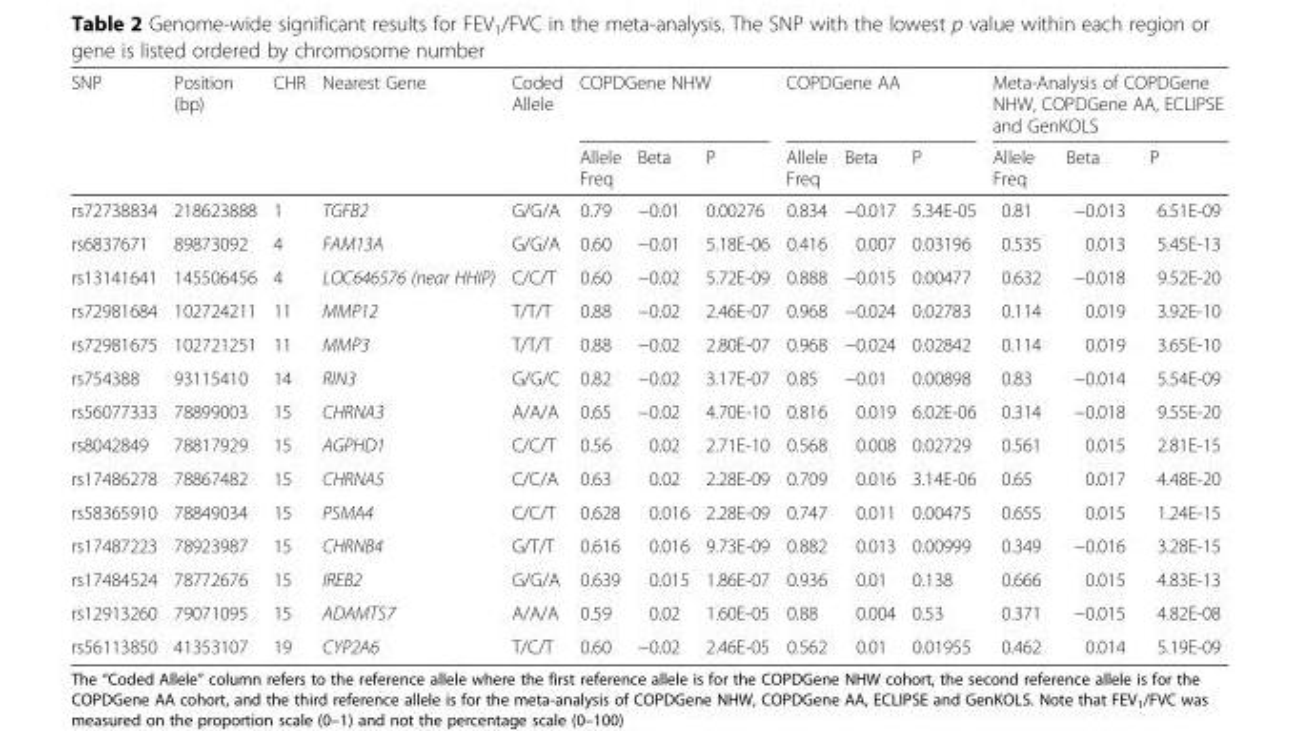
<table><thead><tr><td rowspan="2">SNP</td><td rowspan="2">Position (bp)</td><td rowspan="2">CHR</td><td rowspan="2">Nearest Gene</td><td rowspan="2">Coded Allele</td><td colspan="3">COPDGene NHW</td><td colspan="3">COPDGene AA</td><td colspan="3">Meta-Analysis of COPDGene NHW, COPDGene AA, ECLIPSE and GenKOLS</td></tr><tr><td>Allele Freq</td><td>Beta</td><td>P</td><td>Allele Freq</td><td>Beta</td><td>P</td><td>Allele Freq</td><td>Beta</td><td>P</td></tr></thead><tbody><tr><td>rs72738834</td><td>218623888</td><td>1</td><td>TGFB2</td><td>G/G/A</td><td>0.79</td><td>−0.01</td><td>0.00276</td><td>0.834</td><td>−0.017</td><td>5.34E-05</td><td>0.81</td><td>−0.013</td><td>6.51E-09</td></tr><tr><td>rs6837671</td><td>89873092</td><td>4</td><td>FAM13A</td><td>G/G/A</td><td>0.60</td><td>−0.01</td><td>5.18E-06</td><td>0.416</td><td>0.007</td><td>0.03196</td><td>0.535</td><td>0.013</td><td>5.45E-13</td></tr><tr><td>rs13141641</td><td>145506456</td><td>4</td><td>LOC646576 (near HHIP)</td><td>C/C/T</td><td>0.60</td><td>−0.02</td><td>5.72E-09</td><td>0.888</td><td>−0.015</td><td>0.00477</td><td>0.632</td><td>−0.018</td><td>9.52E-20</td></tr><tr><td>rs72981684</td><td>102724211</td><td>11</td><td>MMP12</td><td>T/T/T</td><td>0.88</td><td>−0.02</td><td>2.46E-07</td><td>0.968</td><td>−0.024</td><td>0.02783</td><td>0.114</td><td>0.019</td><td>3.92E-10</td></tr><tr><td>rs72981675</td><td>102721251</td><td>11</td><td>MMP3</td><td>T/T/T</td><td>0.88</td><td>−0.02</td><td>2.80E-07</td><td>0.968</td><td>−0.024</td><td>0.02842</td><td>0.114</td><td>0.019</td><td>3.65E-10</td></tr><tr><td>rs754388</td><td>93115410</td><td>14</td><td>RIN3</td><td>G/G/C</td><td>0.82</td><td>−0.02</td><td>3.17E-07</td><td>0.85</td><td>−0.01</td><td>0.00898</td><td>0.83</td><td>−0.014</td><td>5.54E-09</td></tr><tr><td>rs56077333</td><td>78899003</td><td>15</td><td>CHRNA3</td><td>A/A/A</td><td>0.65</td><td>−0.02</td><td>4.70E-10</td><td>0.816</td><td>0.019</td><td>6.02E-06</td><td>0.314</td><td>−0.018</td><td>9.55E-20</td></tr><tr><td>rs8042849</td><td>78817929</td><td>15</td><td>AGPHD1</td><td>C/C/T</td><td>0.56</td><td>0.02</td><td>2.71E-10</td><td>0.568</td><td>0.008</td><td>0.02729</td><td>0.561</td><td>0.015</td><td>2.81E-15</td></tr><tr><td>rs17486278</td><td>78867482</td><td>15</td><td>CHRNA5</td><td>C/C/A</td><td>0.63</td><td>0.02</td><td>2.28E-09</td><td>0.709</td><td>0.016</td><td>3.14E-06</td><td>0.65</td><td>0.017</td><td>4.48E-20</td></tr><tr><td>rs58365910</td><td>78849034</td><td>15</td><td>PSMA4</td><td>C/C/T</td><td>0.628</td><td>0.016</td><td>2.28E-09</td><td>0.747</td><td>0.011</td><td>0.00475</td><td>0.655</td><td>0.015</td><td>1.24E-15</td></tr><tr><td>rs17487223</td><td>78923987</td><td>15</td><td>CHRNB4</td><td>G/T/T</td><td>0.616</td><td>0.016</td><td>9.73E-09</td><td>0.882</td><td>0.013</td><td>0.00999</td><td>0.349</td><td>−0.016</td><td>3.28E-15</td></tr><tr><td>rs17484524</td><td>78772676</td><td>15</td><td>IREB2</td><td>G/G/A</td><td>0.639</td><td>0.015</td><td>1.86E-07</td><td>0.936</td><td>0.01</td><td>0.138</td><td>0.666</td><td>0.015</td><td>4.83E-13</td></tr><tr><td>rs12913260</td><td>79071095</td><td>15</td><td>ADAMTS7</td><td>A/A/A</td><td>0.59</td><td>0.02</td><td>1.60E-05</td><td>0.88</td><td>0.004</td><td>0.53</td><td>0.371</td><td>−0.015</td><td>4.82E-08</td></tr><tr><td>rs56113850</td><td>41353107</td><td>19</td><td>CYP2A6</td><td>T/C/T</td><td>0.60</td><td>−0.02</td><td>2.46E-05</td><td>0.562</td><td>0.01</td><td>0.01955</td><td>0.462</td><td>0.014</td><td>5.19E-09</td></tr></tbody></table>